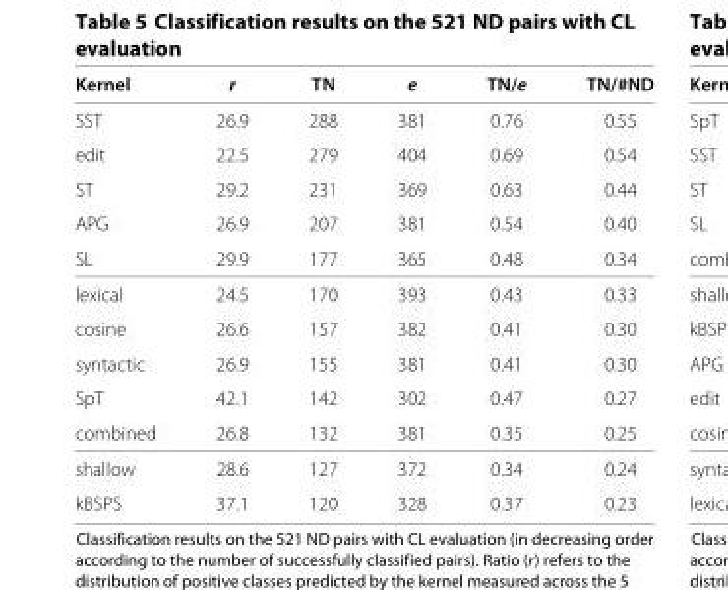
<table><thead><tr><td>Kernel</td><td>r</td><td>TN</td><td>e</td><td>TN/e</td><td>TN/#ND</td></tr></thead><tbody><tr><td>SST</td><td>26.9</td><td>288</td><td>381</td><td>0.76</td><td>0.55</td></tr><tr><td>edit</td><td>22.5</td><td>279</td><td>404</td><td>0.69</td><td>0.54</td></tr><tr><td>ST</td><td>29.2</td><td>231</td><td>369</td><td>0.63</td><td>0.44</td></tr><tr><td>APG</td><td>26.9</td><td>207</td><td>381</td><td>0.54</td><td>0.40</td></tr><tr><td>SL</td><td>29.9</td><td>177</td><td>365</td><td>0.48</td><td>0.34</td></tr><tr><td>lexical</td><td>24.5</td><td>170</td><td>393</td><td>0.43</td><td>0.33</td></tr><tr><td>cosine</td><td>26.6</td><td>157</td><td>382</td><td>0.41</td><td>0.30</td></tr><tr><td>syntactic</td><td>26.9</td><td>155</td><td>381</td><td>0.41</td><td>0.30</td></tr><tr><td>SpT</td><td>42.1</td><td>142</td><td>302</td><td>0.47</td><td>0.27</td></tr><tr><td>combined</td><td>26.8</td><td>132</td><td>381</td><td>0.35</td><td>0.25</td></tr><tr><td>shallow</td><td>28.6</td><td>127</td><td>372</td><td>0.34</td><td>0.24</td></tr><tr><td>kBSPS</td><td>37.1</td><td>120</td><td>328</td><td>0.37</td><td>0.23</td></tr></tbody></table>